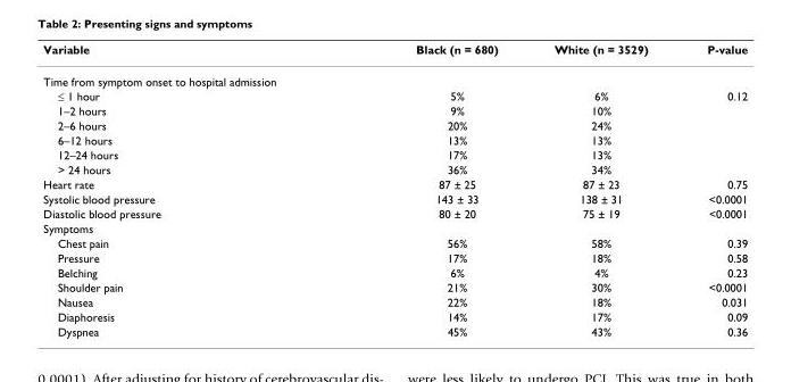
<table><thead><tr><td>Variable</td><td>Black (n = 680)</td><td>White (n = 3529)</td><td>P-value</td></tr></thead><tbody><tr><td colspan="4">Time from symptom onset to hospital admission</td></tr><tr><td>≤ 1 hour</td><td>5%</td><td>6%</td><td>0.12</td></tr><tr><td>1–2 hours</td><td>9%</td><td>10%</td><td></td></tr><tr><td>2–6 hours</td><td>20%</td><td>24%</td><td></td></tr><tr><td>6–12 hours</td><td>13%</td><td>13%</td><td></td></tr><tr><td>12–24 hours</td><td>17%</td><td>13%</td><td></td></tr><tr><td>&gt; 24 hours</td><td>36%</td><td>34%</td><td></td></tr><tr><td>Heart rate</td><td>87 ± 25</td><td>87 ± 23</td><td>0.75</td></tr><tr><td>Systolic blood pressure</td><td>143 ± 33</td><td>138 ± 31</td><td>&lt;0.0001</td></tr><tr><td>Diastolic blood pressure</td><td>80 ± 20</td><td>75 ± 19</td><td>&lt;0.0001</td></tr><tr><td colspan="4">Symptoms</td></tr><tr><td>Chest pain</td><td>56%</td><td>58%</td><td>0.39</td></tr><tr><td>Pressure</td><td>17%</td><td>18%</td><td>0.58</td></tr><tr><td>Belching</td><td>6%</td><td>4%</td><td>0.23</td></tr><tr><td>Shoulder pain</td><td>21%</td><td>30%</td><td>&lt;0.0001</td></tr><tr><td>Nausea</td><td>22%</td><td>18%</td><td>0.031</td></tr><tr><td>Diaphoresis</td><td>14%</td><td>17%</td><td>0.09</td></tr><tr><td>Dyspnea</td><td>45%</td><td>43%</td><td>0.36</td></tr></tbody></table>